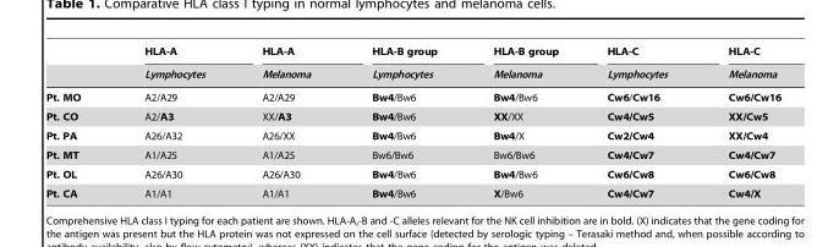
<table><thead><tr><td rowspan="2"></td><td rowspan="2">HLA-A Lymphocytes</td><td rowspan="2">HLA-A Melanoma</td><td rowspan="2">HLA-B group Lymphocytes</td><td rowspan="2">HLA-B group Melanoma</td><td rowspan="2">HLA-C Lymphocytes</td><td rowspan="2">HLA-C Melanoma</td></tr><tr></tr></thead><tbody><tr><td>Pt. MO</td><td>A2/A29</td><td>A2/A29</td><td>Bw4/Bw6</td><td>Bw4/Bw6</td><td>Cw6/Cw16</td><td>Cw6/Cw16</td></tr><tr><td>Pt. CO</td><td>A2/A3</td><td>XX/A3</td><td>Bw4/Bw6</td><td>XX/XX</td><td>Cw4/Cw5</td><td>XX/Cw5</td></tr><tr><td>Pt. PA</td><td>A26/A32</td><td>A26/XX</td><td>Bw4/Bw6</td><td>Bw4/X</td><td>Cw2/Cw4</td><td>XX/Cw4</td></tr><tr><td>Pt. MT</td><td>A1/A25</td><td>A1/A25</td><td>Bw6/Bw6</td><td>Bw6/Bw6</td><td>Cw4/Cw7</td><td>Cw4/Cw7</td></tr><tr><td>Pt. OL</td><td>A26/A30</td><td>A26/A30</td><td>Bw4/Bw6</td><td>Bw4/Bw6</td><td>Cw6/Cw8</td><td>Cw6/Cw8</td></tr><tr><td>Pt. CA</td><td>A1/A1</td><td>A1/A1</td><td>Bw4/Bw6</td><td>X/Bw6</td><td>Cw4/Cw7</td><td>Cw4/X</td></tr></tbody></table>